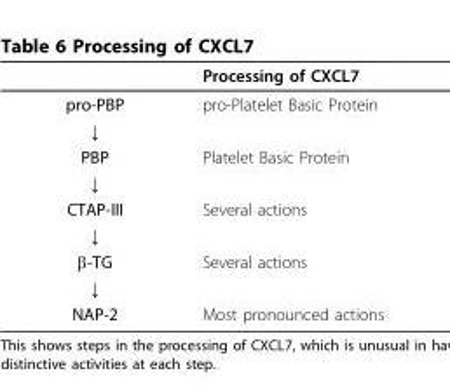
<table><thead><tr><td></td><td>Processing of CXCL7</td></tr></thead><tbody><tr><td>pro-PBP</td><td>pro-Platelet Basic Protein</td></tr><tr><td colspan="2">↓</td></tr><tr><td>PBP</td><td>Platelet Basic Protein</td></tr><tr><td colspan="2">↓</td></tr><tr><td>CTAP-III</td><td>Several actions</td></tr><tr><td colspan="2">↓</td></tr><tr><td>β-TG</td><td>Several actions</td></tr><tr><td colspan="2">↓</td></tr><tr><td>NAP-2</td><td>Most pronounced actions</td></tr></tbody></table>